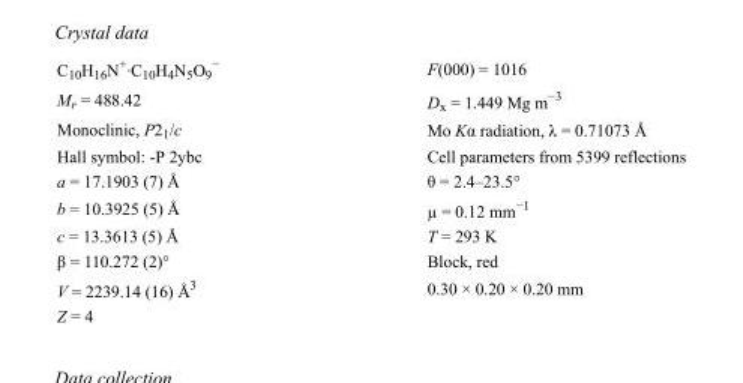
<table><tbody><tr><td>C<sub>10</sub>H<sub>16</sub>N<sup>+</sup>·C<sub>10</sub>H<sub>4</sub>N<sub>5</sub>O<sub>9</sub> <sup>−</sup></td><td>F(000) = 1016</td></tr><tr><td>M<sub>r</sub> = 488.42</td><td>D<sub>x</sub> = 1.449 Mg m<sup>−3</sup></td></tr><tr><td>Monoclinic, P2<sub>1</sub>/c</td><td>Mo Kα radiation, λ = 0.71073 Å</td></tr><tr><td>Hall symbol: -P 2ybc</td><td>Cell parameters from 5399 reflections</td></tr><tr><td>a = 17.1903 (7) Å</td><td>θ = 2.4–23.5°</td></tr><tr><td>b = 10.3925 (5) Å</td><td>µ = 0.12 mm<sup>−1</sup></td></tr><tr><td>c = 13.3613 (5) Å</td><td>T = 293 K</td></tr><tr><td>β = 110.272 (2)°</td><td>Block, red</td></tr><tr><td>V = 2239.14 (16) Å<sup>3</sup></td><td>0.30 × 0.20 × 0.20 mm</td></tr><tr><td>Z = 4</td><td></td></tr></tbody></table>